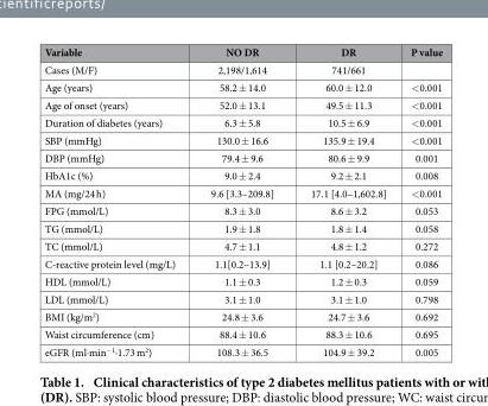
<table><thead><tr><td>Variable</td><td>NO DR</td><td>DR</td><td>P value</td></tr></thead><tbody><tr><td>Cases (M/F)</td><td>2,198/1,614</td><td>741/661</td><td></td></tr><tr><td>Age (years)</td><td>58.2 ± 14.0</td><td>60.0 ± 12.0</td><td>&lt; 0.001</td></tr><tr><td>Age of onset (years)</td><td>52.0 ± 13.1</td><td>49.5 ± 11.3</td><td>&lt; 0.001</td></tr><tr><td>Duration of diabetes (years)</td><td>6.3 ± 5.8</td><td>10.5 ± 6.9</td><td>&lt; 0.001</td></tr><tr><td>SBP (mmHg)</td><td>130.0 ± 16.6</td><td>135.9 ± 19.4</td><td>&lt; 0.001</td></tr><tr><td>DBP (mmHg)</td><td>79.4 ± 9.6</td><td>80.6 ± 9.9</td><td>0.001</td></tr><tr><td>HbA1c (%)</td><td>9.0 ± 2.4</td><td>9.2 ± 2.1</td><td>0.008</td></tr><tr><td>MA (mg/24 h)</td><td>9.6 [3.3–209.8]</td><td>17.1 [4.0–1,602.8]</td><td>&lt; 0.001</td></tr><tr><td>FPG (mmol/L)</td><td>8.3 ± 3.0</td><td>8.6 ± 3.2</td><td>0.053</td></tr><tr><td>TG (mmol/L)</td><td>1.9 ± 1.8</td><td>1.8 ± 1.4</td><td>0.058</td></tr><tr><td>TC (mmol/L)</td><td>4.7 ± 1.1</td><td>4.8 ± 1.2</td><td>0.272</td></tr><tr><td>C-reactive protein level (mg/L)</td><td>1.1[0.2–13.9]</td><td>1.1 [0.2–20.2]</td><td>0.086</td></tr><tr><td>HDL (mmol/L)</td><td>1.1 ± 0.3</td><td>1.2 ± 0.3</td><td>0.059</td></tr><tr><td>LDL (mmol/L)</td><td>3.1 ± 1.0</td><td>3.1 ± 1.0</td><td>0.798</td></tr><tr><td>BMI (kg/m<sup>2</sup>)</td><td>24.8 ± 3.6</td><td>24.7 ± 3.6</td><td>0.692</td></tr><tr><td>Waist circumference (cm)</td><td>88.4 ± 10.6</td><td>88.3 ± 10.6</td><td>0.695</td></tr><tr><td>eGFR (ml·min<sup>−1</sup>·1.73 m<sup>2</sup>)</td><td>108.3 ± 36.5</td><td>104.9 ± 39.2</td><td>0.005</td></tr></tbody></table>